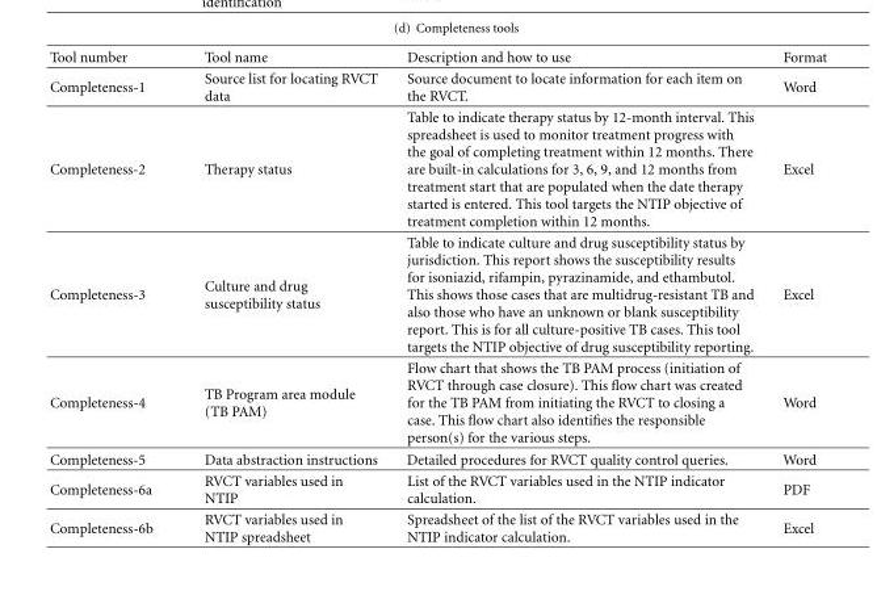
<table><thead><tr><td>Tool number</td><td>Tool name</td><td>Description and how to use</td><td>Format</td></tr></thead><tbody><tr><td>Completeness-1</td><td>Source list for locating RVCT data</td><td>Source document to locate information for each item on the RVCT.</td><td>Word</td></tr><tr><td>Completeness-2</td><td>Therapy status</td><td>Table to indicate therapy status by 12-month interval. This spreadsheet is used to monitor treatment progress with the goal of completing treatment within 12 months. There are built-in calculations for 3, 6, 9, and 12 months from treatment start that are populated when the date therapy started is entered. This tool targets the NTIP objective of treatment completion within 12 months.</td><td>Excel</td></tr><tr><td>Completeness-3</td><td>Culture and drug susceptibility status</td><td>Table to indicate culture and drug susceptibility status by jurisdiction. This report shows the susceptibility results for isoniazid, rifampin, pyrazinamide, and ethambutol. This shows those cases that are multidrug-resistant TB and also those who have an unknown or blank susceptibility report. This is for all culture-positive TB cases. This tool targets the NTIP objective of drug susceptibility reporting.</td><td>Excel</td></tr><tr><td>Completeness-4</td><td>TB Program area module (TB PAM)</td><td>Flow chart that shows the TB PAM process (initiation of RVCT through case closure). This flow chart was created for the TB PAM from initiating the RVCT to closing a case. This flow chart also identifies the responsible person(s) for the various steps.</td><td>Word</td></tr><tr><td>Completeness-5</td><td>Data abstraction instructions</td><td>Detailed procedures for RVCT quality control queries.</td><td>Word</td></tr><tr><td>Completeness-6a</td><td>RVCT variables used in NTIP</td><td>List of the RVCT variables used in the NTIP indicator calculation.</td><td>PDF</td></tr><tr><td>Completeness-6b</td><td>RVCT variables used in NTIP spreadsheet</td><td>Spreadsheet of the list of the RVCT variables used in the NTIP indicator calculation.</td><td>Excel</td></tr></tbody></table>